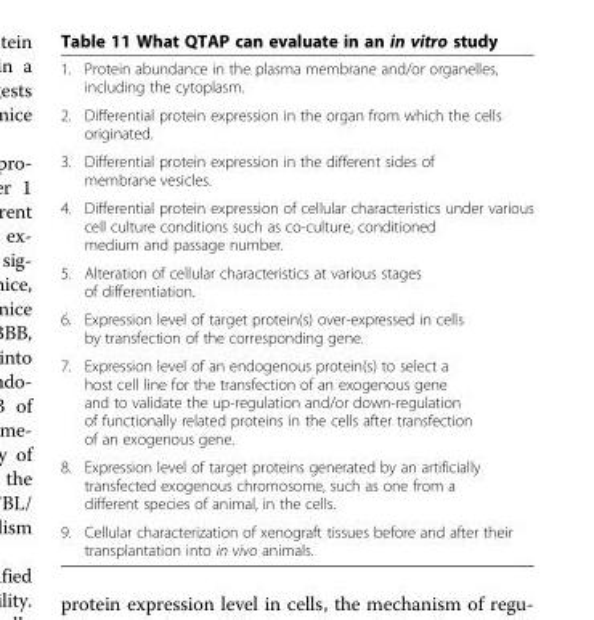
<table><tbody><tr><td>1.</td><td>Protein abundance in the plasma membrane and/or organelles, including the cytoplasm.</td></tr><tr><td>2.</td><td>Differential protein expression in the organ from which the cells originated.</td></tr><tr><td>3.</td><td>Differential protein expression in the different sides of membrane vesicles.</td></tr><tr><td>4.</td><td>Differential protein expression of cellular characteristics under various cell culture conditions such as co-culture, conditioned medium and passage number.</td></tr><tr><td>5.</td><td>Alteration of cellular characteristics at various stages of differentiation.</td></tr><tr><td>6.</td><td>Expression level of target protein(s) over-expressed in cells by transfection of the corresponding gene.</td></tr><tr><td>7.</td><td>Expression level of an endogenous protein(s) to select a host cell line for the transfection of an exogenous gene and to validate the up-regulation and/or down-regulation of functionally related proteins in the cells after transfection of an exogenous gene.</td></tr><tr><td>8.</td><td>Expression level of target proteins generated by an artificially transfected exogenous chromosome, such as one from a different species of animal, in the cells.</td></tr><tr><td>9.</td><td>Cellular characterization of xenograft tissues before and after their transplantation into in vivo animals.</td></tr></tbody></table>